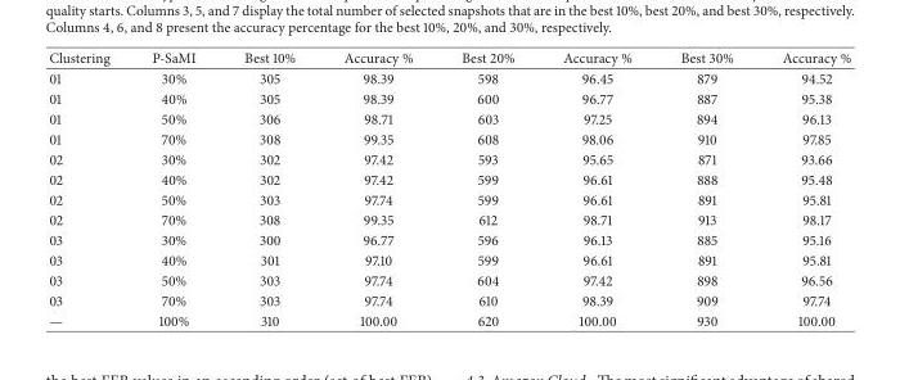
<table><thead><tr><td>Clustering</td><td>P-SaMI</td><td>Best 10%</td><td>Accuracy %</td><td>Best 20%</td><td>Accuracy %</td><td>Best 30%</td><td>Accuracy %</td></tr></thead><tbody><tr><td>01</td><td>30%</td><td>305</td><td>98.39</td><td>598</td><td>96.45</td><td>879</td><td>94.52</td></tr><tr><td>01</td><td>40%</td><td>305</td><td>98.39</td><td>600</td><td>96.77</td><td>887</td><td>95.38</td></tr><tr><td>01</td><td>50%</td><td>306</td><td>98.71</td><td>603</td><td>97.25</td><td>894</td><td>96.13</td></tr><tr><td>01</td><td>70%</td><td>308</td><td>99.35</td><td>608</td><td>98.06</td><td>910</td><td>97.85</td></tr><tr><td>02</td><td>30%</td><td>302</td><td>97.42</td><td>593</td><td>95.65</td><td>871</td><td>93.66</td></tr><tr><td>02</td><td>40%</td><td>302</td><td>97.42</td><td>599</td><td>96.61</td><td>888</td><td>95.48</td></tr><tr><td>02</td><td>50%</td><td>303</td><td>97.74</td><td>599</td><td>96.61</td><td>891</td><td>95.81</td></tr><tr><td>02</td><td>70%</td><td>308</td><td>99.35</td><td>612</td><td>98.71</td><td>913</td><td>98.17</td></tr><tr><td>03</td><td>30%</td><td>300</td><td>96.77</td><td>596</td><td>96.13</td><td>885</td><td>95.16</td></tr><tr><td>03</td><td>40%</td><td>301</td><td>97.10</td><td>599</td><td>96.61</td><td>891</td><td>95.81</td></tr><tr><td>03</td><td>50%</td><td>303</td><td>97.74</td><td>604</td><td>97.42</td><td>898</td><td>96.56</td></tr><tr><td>03</td><td>70%</td><td>303</td><td>97.74</td><td>610</td><td>98.39</td><td>909</td><td>97.74</td></tr><tr><td>—</td><td>100%</td><td>310</td><td>100.00</td><td>620</td><td>100.00</td><td>930</td><td>100.00</td></tr></tbody></table>